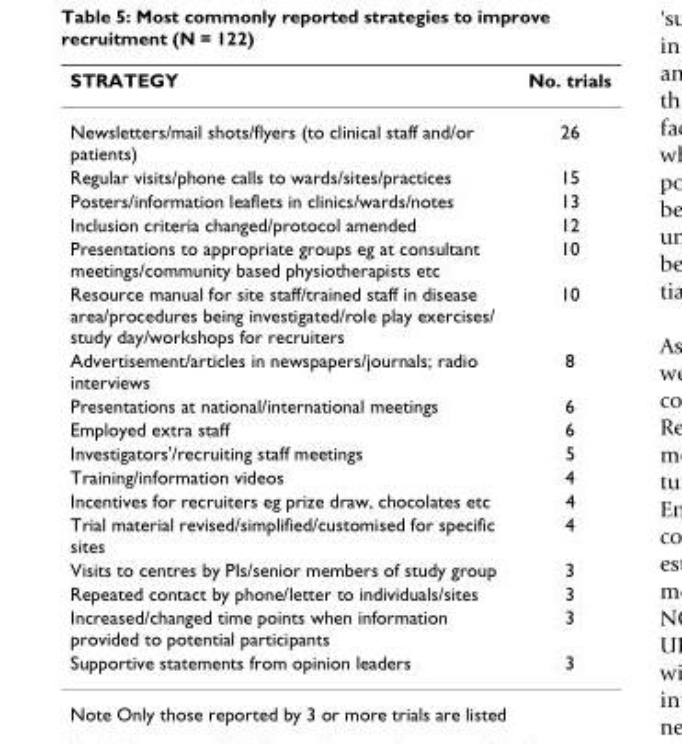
<table><thead><tr><td>STRATEGY</td><td>No. trials</td></tr></thead><tbody><tr><td>Newsletters/mail shots/flyers (to clinical staff and/or patients)</td><td>26</td></tr><tr><td>Regular visits/phone calls to wards/sites/practices</td><td>15</td></tr><tr><td>Posters/information leaflets in clinics/wards/notes</td><td>13</td></tr><tr><td>Inclusion criteria changed/protocol amended</td><td>12</td></tr><tr><td>Presentations to appropriate groups eg at consultant meetings/community based physiotherapists etc</td><td>10</td></tr><tr><td>Resource manual for site staff/trained staff in disease area/procedures being investigated/role play exercises/ study day/workshops for recruiters</td><td>10</td></tr><tr><td>Advertisement/articles in newspapers/journals; radio interviews</td><td>8</td></tr><tr><td>Presentations at national/international meetings</td><td>6</td></tr><tr><td>Employed extra staff</td><td>6</td></tr><tr><td>Investigators&#x27;/recruiting staff meetings</td><td>5</td></tr><tr><td>Training/information videos</td><td>4</td></tr><tr><td>Incentives for recruiters eg prize draw, chocolates etc</td><td>4</td></tr><tr><td>Trial material revised/simplified/customised for specific sites</td><td>4</td></tr><tr><td>Visits to centres by PIs/senior members of study group</td><td>3</td></tr><tr><td>Repeated contact by phone/letter to individuals/sites</td><td>3</td></tr><tr><td>Increased/changed time points when information provided to potential participants</td><td>3</td></tr><tr><td>Supportive statements from opinion leaders</td><td>3</td></tr></tbody></table>